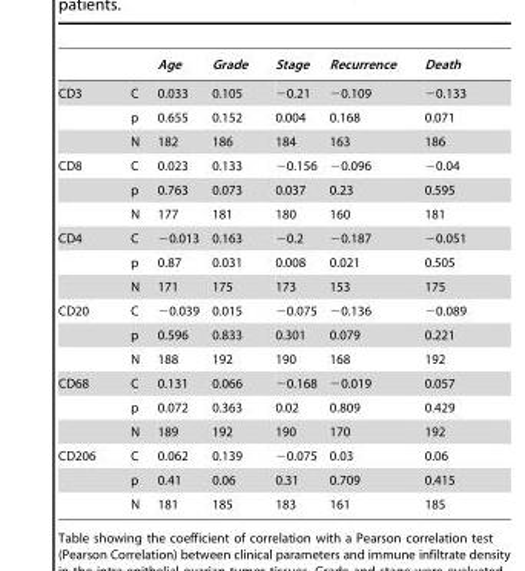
<table><thead><tr><td></td><td></td><td>Age</td><td>Grade</td><td>Stage</td><td>Recurrence</td><td>Death</td></tr></thead><tbody><tr><td rowspan="3">CD3</td><td>C</td><td>0.033</td><td>0.105</td><td>−0.21</td><td>−0.109</td><td>−0.133</td></tr><tr><td>p</td><td>0.655</td><td>0.152</td><td>0.004</td><td>0.168</td><td>0.071</td></tr><tr><td>N</td><td>182</td><td>186</td><td>184</td><td>163</td><td>186</td></tr><tr><td rowspan="3">CD8</td><td>C</td><td>0.023</td><td>0.133</td><td>−0.156</td><td>−0.096</td><td>−0.04</td></tr><tr><td>p</td><td>0.763</td><td>0.073</td><td>0.037</td><td>0.23</td><td>0.595</td></tr><tr><td>N</td><td>177</td><td>181</td><td>180</td><td>160</td><td>181</td></tr><tr><td rowspan="3">CD4</td><td>C</td><td>−0.013</td><td>0.163</td><td>−0.2</td><td>−0.187</td><td>−0.051</td></tr><tr><td>p</td><td>0.87</td><td>0.031</td><td>0.008</td><td>0.021</td><td>0.505</td></tr><tr><td>N</td><td>171</td><td>175</td><td>173</td><td>153</td><td>175</td></tr><tr><td rowspan="3">CD20</td><td>C</td><td>−0.039</td><td>0.015</td><td>−0.075</td><td>−0.136</td><td>−0.089</td></tr><tr><td>p</td><td>0.596</td><td>0.833</td><td>0.301</td><td>0.079</td><td>0.221</td></tr><tr><td>N</td><td>188</td><td>192</td><td>190</td><td>168</td><td>192</td></tr><tr><td rowspan="3">CD68</td><td>C</td><td>0.131</td><td>0.066</td><td>−0.168</td><td>−0.019</td><td>0.057</td></tr><tr><td>p</td><td>0.072</td><td>0.363</td><td>0.02</td><td>0.809</td><td>0.429</td></tr><tr><td>N</td><td>189</td><td>192</td><td>190</td><td>170</td><td>192</td></tr><tr><td rowspan="3">CD206</td><td>C</td><td>0.062</td><td>0.139</td><td>−0.075</td><td>0.03</td><td>0.06</td></tr><tr><td>p</td><td>0.41</td><td>0.06</td><td>0.31</td><td>0.709</td><td>0.415</td></tr><tr><td>N</td><td>181</td><td>185</td><td>183</td><td>161</td><td>185</td></tr></tbody></table>